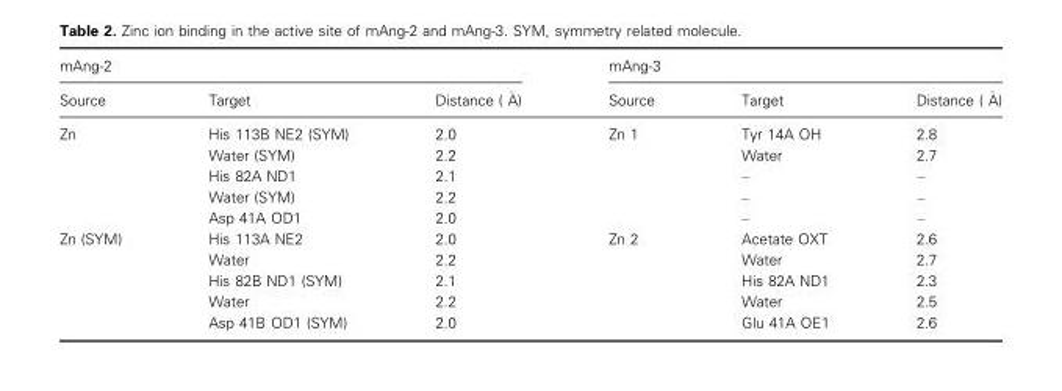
<table><thead><tr><td colspan="3">mAng-2</td><td colspan="3">mAng-3</td></tr><tr><td>Source</td><td>Target</td><td>Distance (�A)</td><td>Source</td><td>Target</td><td>Distance (�A)</td></tr></thead><tbody><tr><td rowspan="5">Zn</td><td>His 113B NE2 (SYM)</td><td>2.0</td><td rowspan="5">Zn 1</td><td>Tyr 14A OH</td><td>2.8</td></tr><tr><td>Water (SYM)</td><td>2.2</td><td>Water</td><td>2.7</td></tr><tr><td>His 82A ND1</td><td>2.1</td><td>–</td><td>–</td></tr><tr><td>Water (SYM)</td><td>2.2</td><td>–</td><td>–</td></tr><tr><td>Asp 41A OD1</td><td>2.0</td><td>–</td><td>–</td></tr><tr><td rowspan="5">Zn (SYM)</td><td>His 113A NE2</td><td>2.0</td><td rowspan="5">Zn 2</td><td>Acetate OXT</td><td>2.6</td></tr><tr><td>Water</td><td>2.2</td><td>Water</td><td>2.7</td></tr><tr><td>His 82B ND1 (SYM)</td><td>2.1</td><td>His 82A ND1</td><td>2.3</td></tr><tr><td>Water</td><td>2.2</td><td>Water</td><td>2.5</td></tr><tr><td>Asp 41B OD1 (SYM)</td><td>2.0</td><td>Glu 41A OE1</td><td>2.6</td></tr></tbody></table>